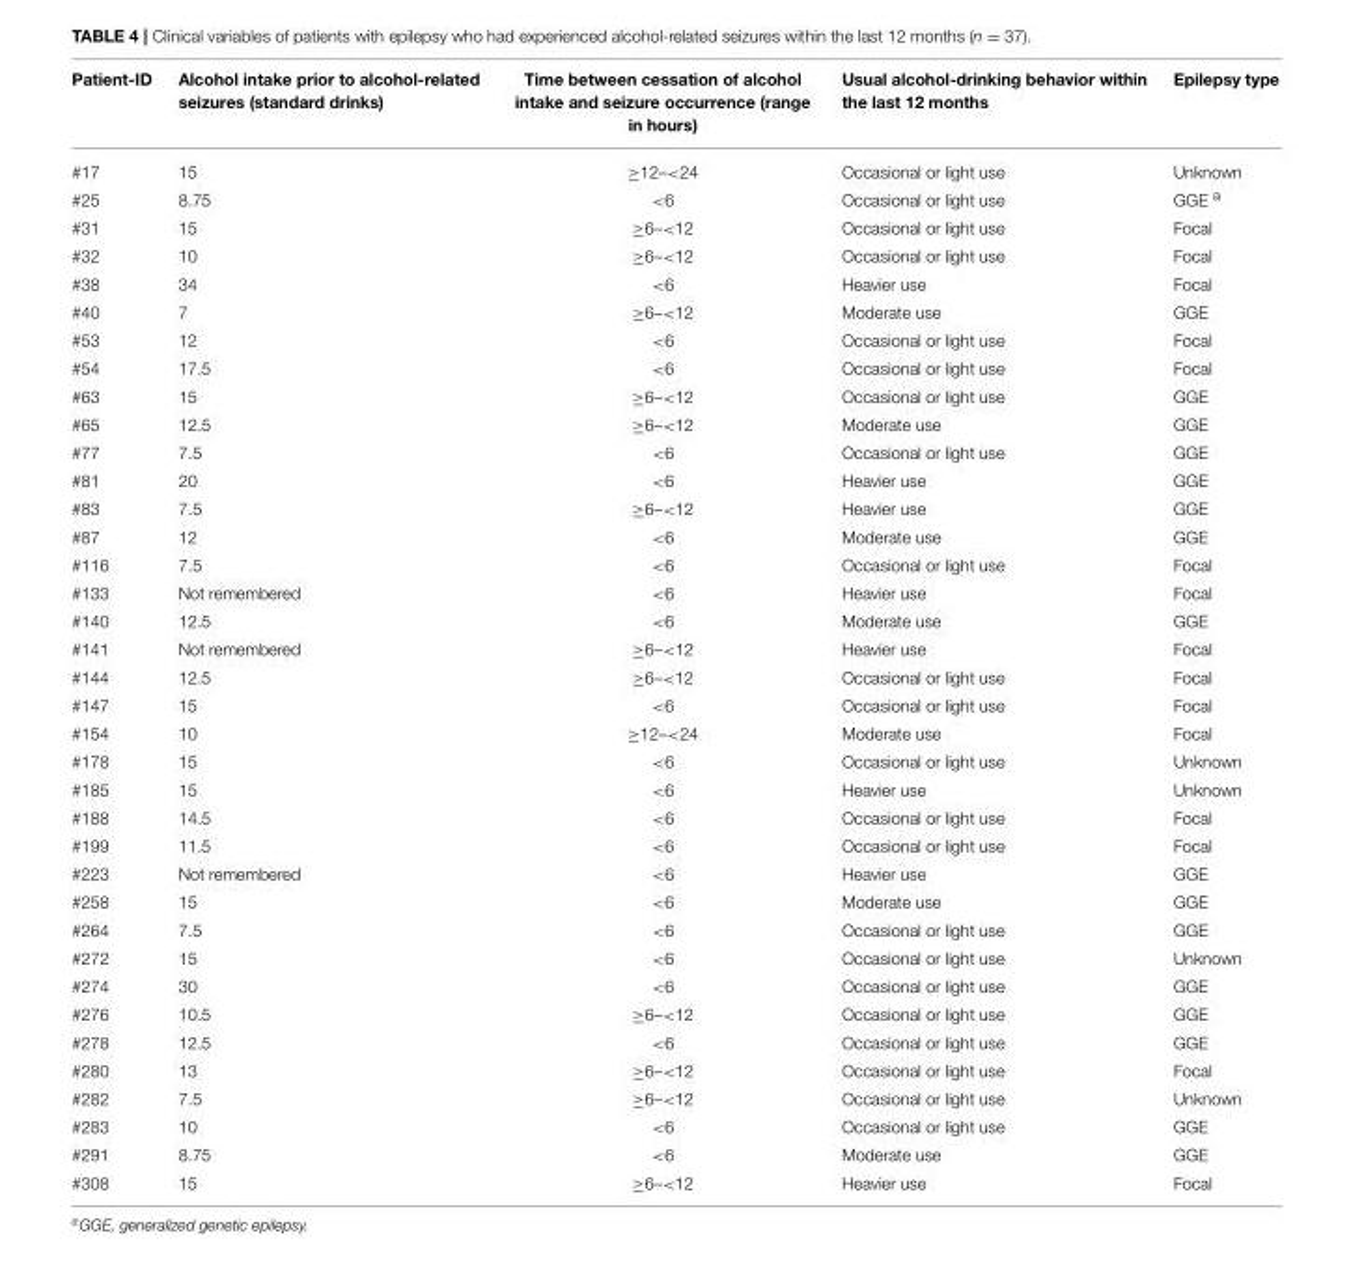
<table><thead><tr><td>Patient-ID</td><td>Alcohol intake prior to alcohol-related seizures (standard drinks)</td><td>Time between cessation of alcohol intake and seizure occurrence (range in hours)</td><td>Usual alcohol-drinking behavior within the last 12 months</td><td>Epilepsy type</td></tr></thead><tbody><tr><td>#17</td><td>15</td><td>≥12–&lt;24</td><td>Occasional or light use</td><td>Unknown</td></tr><tr><td>#25</td><td>8.75</td><td>&lt;6</td><td>Occasional or light use</td><td>GGE <sup>a</sup></td></tr><tr><td>#31</td><td>15</td><td>≥6–&lt;12</td><td>Occasional or light use</td><td>Focal</td></tr><tr><td>#32</td><td>10</td><td>≥6–&lt;12</td><td>Occasional or light use</td><td>Focal</td></tr><tr><td>#38</td><td>34</td><td>&lt;6</td><td>Heavier use</td><td>Focal</td></tr><tr><td>#40</td><td>7</td><td>≥6–&lt;12</td><td>Moderate use</td><td>GGE</td></tr><tr><td>#53</td><td>12</td><td>&lt;6</td><td>Occasional or light use</td><td>Focal</td></tr><tr><td>#54</td><td>17.5</td><td>&lt;6</td><td>Occasional or light use</td><td>Focal</td></tr><tr><td>#63</td><td>15</td><td>≥6–&lt;12</td><td>Occasional or light use</td><td>GGE</td></tr><tr><td>#65</td><td>12.5</td><td>≥6–&lt;12</td><td>Moderate use</td><td>GGE</td></tr><tr><td>#77</td><td>7.5</td><td>&lt;6</td><td>Occasional or light use</td><td>GGE</td></tr><tr><td>#81</td><td>20</td><td>&lt;6</td><td>Heavier use</td><td>GGE</td></tr><tr><td>#83</td><td>7.5</td><td>≥6–&lt;12</td><td>Heavier use</td><td>GGE</td></tr><tr><td>#87</td><td>12</td><td>&lt;6</td><td>Moderate use</td><td>GGE</td></tr><tr><td>#116</td><td>7.5</td><td>&lt;6</td><td>Occasional or light use</td><td>Focal</td></tr><tr><td>#133</td><td>Not remembered</td><td>&lt;6</td><td>Heavier use</td><td>Focal</td></tr><tr><td>#140</td><td>12.5</td><td>&lt;6</td><td>Moderate use</td><td>GGE</td></tr><tr><td>#141</td><td>Not remembered</td><td>≥6–&lt;12</td><td>Heavier use</td><td>Focal</td></tr><tr><td>#144</td><td>12.5</td><td>≥6–&lt;12</td><td>Occasional or light use</td><td>Focal</td></tr><tr><td>#147</td><td>15</td><td>&lt;6</td><td>Occasional or light use</td><td>Focal</td></tr><tr><td>#154</td><td>10</td><td>≥12–&lt;24</td><td>Moderate use</td><td>Focal</td></tr><tr><td>#178</td><td>15</td><td>&lt;6</td><td>Occasional or light use</td><td>Unknown</td></tr><tr><td>#185</td><td>15</td><td>&lt;6</td><td>Heavier use</td><td>Unknown</td></tr><tr><td>#188</td><td>14.5</td><td>&lt;6</td><td>Occasional or light use</td><td>Focal</td></tr><tr><td>#199</td><td>11.5</td><td>&lt;6</td><td>Occasional or light use</td><td>Focal</td></tr><tr><td>#223</td><td>Not remembered</td><td>&lt;6</td><td>Heavier use</td><td>GGE</td></tr><tr><td>#258</td><td>15</td><td>&lt;6</td><td>Moderate use</td><td>GGE</td></tr><tr><td>#264</td><td>7.5</td><td>&lt;6</td><td>Occasional or light use</td><td>GGE</td></tr><tr><td>#272</td><td>15</td><td>&lt;6</td><td>Occasional or light use</td><td>Unknown</td></tr><tr><td>#274</td><td>30</td><td>&lt;6</td><td>Occasional or light use</td><td>GGE</td></tr><tr><td>#276</td><td>10.5</td><td>≥6–&lt;12</td><td>Occasional or light use</td><td>GGE</td></tr><tr><td>#278</td><td>12.5</td><td>&lt;6</td><td>Occasional or light use</td><td>GGE</td></tr><tr><td>#280</td><td>13</td><td>≥6–&lt;12</td><td>Occasional or light use</td><td>Focal</td></tr><tr><td>#282</td><td>7.5</td><td>≥6–&lt;12</td><td>Occasional or light use</td><td>Unknown</td></tr><tr><td>#283</td><td>10</td><td>&lt;6</td><td>Occasional or light use</td><td>GGE</td></tr><tr><td>#291</td><td>8.75</td><td>&lt;6</td><td>Moderate use</td><td>GGE</td></tr><tr><td>#308</td><td>15</td><td>≥6–&lt;12</td><td>Heavier use</td><td>Focal</td></tr></tbody></table>